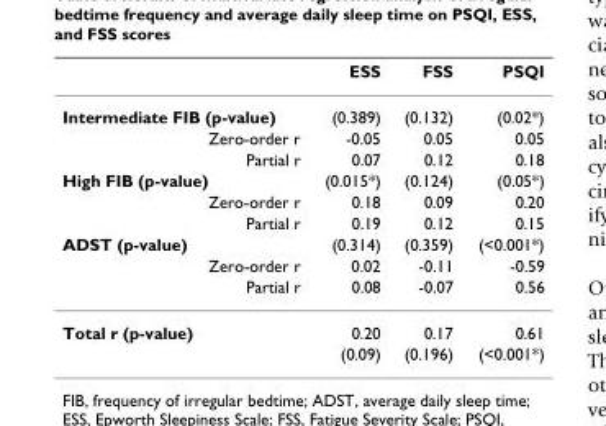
<table><thead><tr><td></td><td>ESS</td><td>FSS</td><td>PSQI</td></tr></thead><tbody><tr><td>Intermediate FIB (p-value)</td><td>(0.389)</td><td>(0.132)</td><td>(0.02*)</td></tr><tr><td>Zero-order r</td><td>-0.05</td><td>0.05</td><td>0.05</td></tr><tr><td>Partial r</td><td>0.07</td><td>0.12</td><td>0.18</td></tr><tr><td>High FIB (p-value)</td><td>(0.015*)</td><td>(0.124)</td><td>(0.05*)</td></tr><tr><td>Zero-order r</td><td>0.18</td><td>0.09</td><td>0.20</td></tr><tr><td>Partial r</td><td>0.19</td><td>0.12</td><td>0.15</td></tr><tr><td>ADST (p-value)</td><td>(0.314)</td><td>(0.359)</td><td>(&lt;0.001*)</td></tr><tr><td>Zero-order r</td><td>0.02</td><td>-0.11</td><td>-0.59</td></tr><tr><td>Partial r</td><td>0.08</td><td>-0.07</td><td>0.56</td></tr><tr><td rowspan="2">Total r (p-value)</td><td>0.20</td><td>0.17</td><td>0.61</td></tr><tr><td>(0.09)</td><td>(0.196)</td><td>(&lt;0.001*)</td></tr></tbody></table>